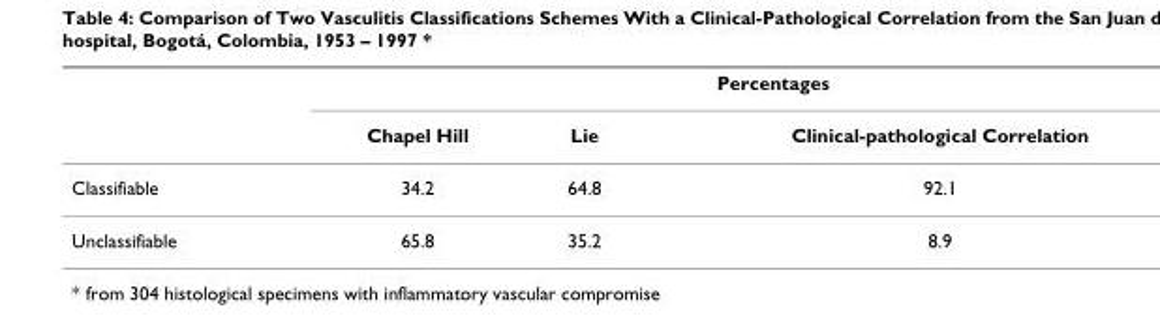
<table><thead><tr><td rowspan="2"></td><td colspan="3">Percentages</td></tr><tr><td>Chapel Hill</td><td>Lie</td><td>Clinical-pathological Correlation</td></tr></thead><tbody><tr><td>Classifiable</td><td>34.2</td><td>64.8</td><td>92.1</td></tr><tr><td>Unclassifiable</td><td>65.8</td><td>35.2</td><td>8.9</td></tr></tbody></table>